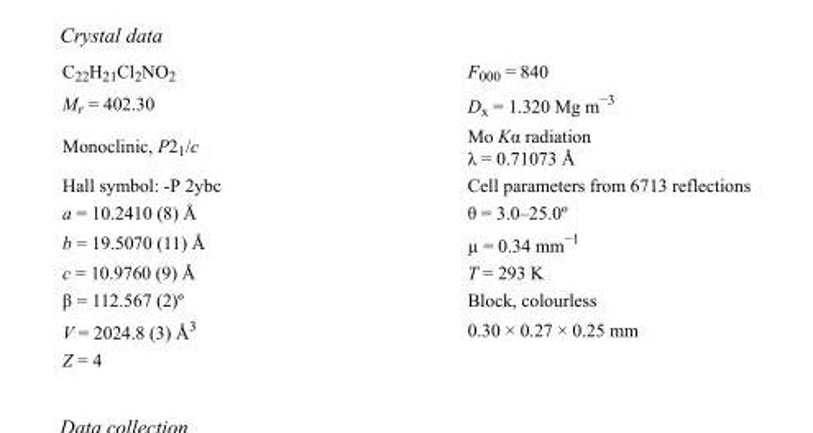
<table><tbody><tr><td>C<sub>22</sub>H<sub>21</sub>Cl<sub>2</sub>NO<sub>2</sub></td><td>F000 = 840</td></tr><tr><td>M<sub>r</sub> = 402.30</td><td>D<sub>x</sub> = 1.320 Mg m<sup>−3</sup></td></tr><tr><td>Monoclinic, P2<sub>1</sub>/c</td><td>Mo Kα radiation λ = 0.71073 Å</td></tr><tr><td>Hall symbol: -P 2ybc</td><td>Cell parameters from 6713 reflections</td></tr><tr><td>a = 10.2410 (8) Å</td><td>θ = 3.0–25.0º</td></tr><tr><td>b = 19.5070 (11) Å</td><td>µ = 0.34 mm<sup>−1</sup></td></tr><tr><td>c = 10.9760 (9) Å</td><td>T = 293 K</td></tr><tr><td>β = 112.567 (2)º</td><td>Block, colourless</td></tr><tr><td>V = 2024.8 (3) Å<sup>3</sup></td><td>0.30 × 0.27 × 0.25 mm</td></tr><tr><td>Z = 4</td><td></td></tr></tbody></table>